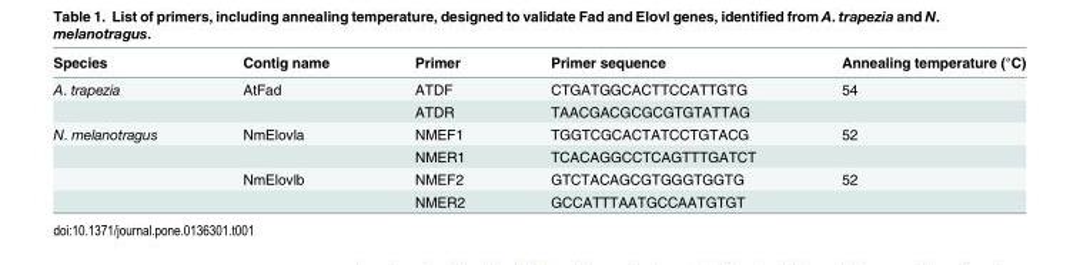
<table><thead><tr><td>Species</td><td>Contig name</td><td>Primer</td><td>Primer sequence</td><td>Annealing temperature (°C)</td></tr></thead><tbody><tr><td rowspan="2">A. trapezia</td><td>AtFad</td><td>ATDF</td><td>CTGATGGCACTTCCATTGTG</td><td>54</td></tr><tr><td></td><td>ATDR</td><td>TAACGACGCGCGTGTATTAG</td><td></td></tr><tr><td rowspan="4">N. melanotragus</td><td>NmElovla</td><td>NMEF1</td><td>TGGTCGCACTATCCTGTACG</td><td>52</td></tr><tr><td></td><td>NMER1</td><td>TCACAGGCCTCAGTTTGATCT</td><td></td></tr><tr><td>NmElovlb</td><td>NMEF2</td><td>GTCTACAGCGTGGGTGGTG</td><td>52</td></tr><tr><td></td><td>NMER2</td><td>GCCATTTAATGCCAATGTGT</td><td></td></tr></tbody></table>